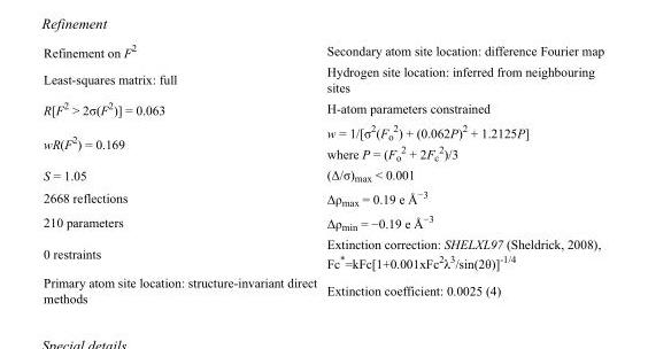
<table><tbody><tr><td>Refinement on F<sup>2</sup></td><td>Secondary atom site location: difference Fourier map</td></tr><tr><td>Least-squares matrix: full</td><td>Hydrogen site location: inferred from neighbouring sites</td></tr><tr><td>R[F<sup>2</sup> &gt; 2σ(F<sup>2</sup>)] = 0.063</td><td>H-atom parameters constrained</td></tr><tr><td>wR(F<sup>2</sup>) = 0.169</td><td>w = 1/[σ<sup>2</sup>(F<sub>o</sub> <sup>2</sup>) + (0.062P)<sup>2</sup> + 1.2125P] where P = (F<sub>o</sub> <sup>2</sup> + 2F<sub>c</sub> <sup>2</sup>)/3</td></tr><tr><td>S = 1.05</td><td>(Δ/σ)<sub>max</sub> &lt; 0.001</td></tr><tr><td>2668 reflections</td><td>Δρ<sub>max</sub> = 0.19 e Å<sup>−3</sup></td></tr><tr><td>210 parameters</td><td>Δρ<sub>min</sub> = −0.19 e Å<sup>−3</sup></td></tr><tr><td>0 restraints</td><td>Extinction correction: SHELXL97 (Sheldrick, 2008), Fc*=kFc[1+0.001xFc<sup>2</sup>λ<sup>3</sup>/sin(2θ)]<sup>-1/4</sup></td></tr><tr><td>Primary atom site location: structure-invariant direct methods</td><td>Extinction coefficient: 0.0025 (4)</td></tr></tbody></table>